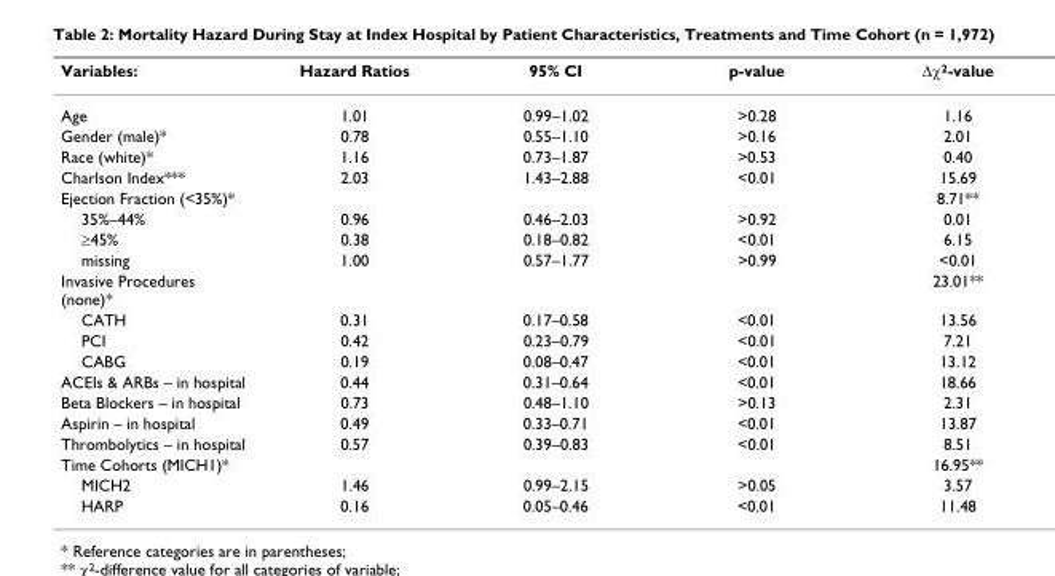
<table><thead><tr><td>Variables:</td><td>Hazard Ratios</td><td>95% CI</td><td>p-value</td><td>∆χ2-value</td></tr></thead><tbody><tr><td>Age</td><td>1.01</td><td>0.99–1.02</td><td>&gt;0.28</td><td>1.16</td></tr><tr><td>Gender (male)*</td><td>0.78</td><td>0.55–1.10</td><td>&gt;0.16</td><td>2.01</td></tr><tr><td>Race (white)*</td><td>1.16</td><td>0.73–1.87</td><td>&gt;0.53</td><td>0.40</td></tr><tr><td>Charlson Index***</td><td>2.03</td><td>1.43–2.88</td><td>&lt;0.01</td><td>15.69</td></tr><tr><td>Ejection Fraction (&lt;35%)*</td><td></td><td></td><td></td><td>8.71**</td></tr><tr><td>35%–44%</td><td>0.96</td><td>0.46–2.03</td><td>&gt;0.92</td><td>0.01</td></tr><tr><td>≥45%</td><td>0.38</td><td>0.18–0.82</td><td>&lt;0.01</td><td>6.15</td></tr><tr><td>missing</td><td>1.00</td><td>0.57–1.77</td><td>&gt;0.99</td><td>&lt;0.01</td></tr><tr><td>Invasive Procedures (none)*</td><td></td><td></td><td></td><td>23.01**</td></tr><tr><td>CATH</td><td>0.31</td><td>0.17–0.58</td><td>&lt;0.01</td><td>13.56</td></tr><tr><td>PCI</td><td>0.42</td><td>0.23–0.79</td><td>&lt;0.01</td><td>7.21</td></tr><tr><td>CABG</td><td>0.19</td><td>0.08–0.47</td><td>&lt;0.01</td><td>13.12</td></tr><tr><td>ACEIs &amp; ARBs – in hospital</td><td>0.44</td><td>0.31–0.64</td><td>&lt;0.01</td><td>18.66</td></tr><tr><td>Beta Blockers – in hospital</td><td>0.73</td><td>0.48–1.10</td><td>&gt;0.13</td><td>2.31</td></tr><tr><td>Aspirin – in hospital</td><td>0.49</td><td>0.33–0.71</td><td>&lt;0.01</td><td>13.87</td></tr><tr><td>Thrombolytics – in hospital</td><td>0.57</td><td>0.39–0.83</td><td>&lt;0.01</td><td>8.51</td></tr><tr><td>Time Cohorts (MICH1)*</td><td></td><td></td><td></td><td>16.95**</td></tr><tr><td>MICH2</td><td>1.46</td><td>0.99–2.15</td><td>&gt;0.05</td><td>3.57</td></tr><tr><td>HARP</td><td>0.16</td><td>0.05–0.46</td><td>&lt;0.01</td><td>11.48</td></tr></tbody></table>